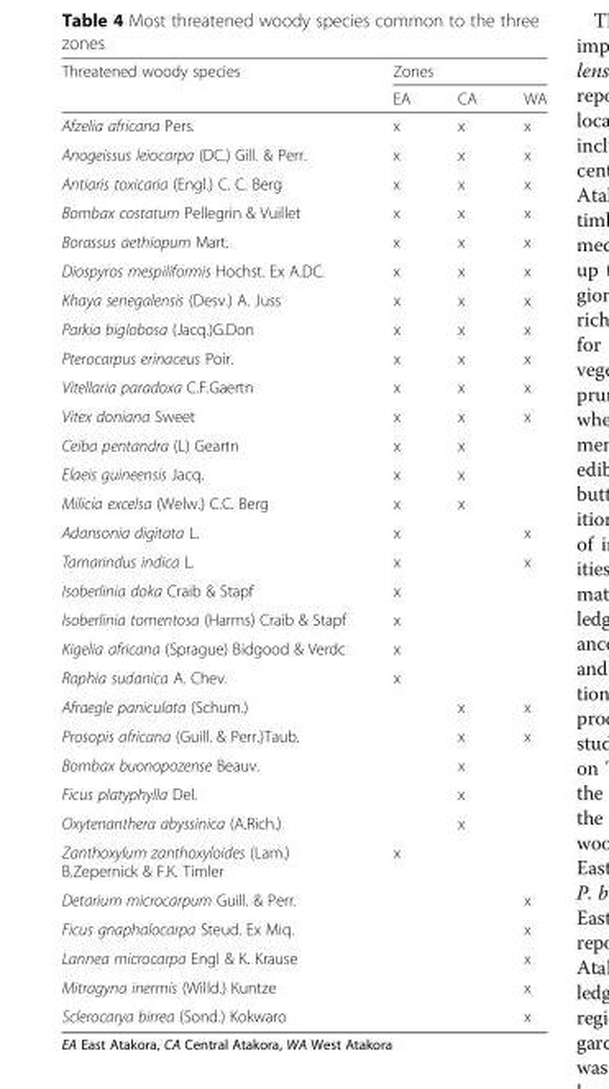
<table><thead><tr><td rowspan="2">Threatened woody species</td><td colspan="3">Zones</td></tr><tr><td>EA</td><td>CA</td><td>WA</td></tr></thead><tbody><tr><td>Afzelia africana Pers.</td><td>x</td><td>x</td><td>x</td></tr><tr><td>Anogeissus leiocarpa (DC.) Gill. &amp; Perr.</td><td>x</td><td>x</td><td>x</td></tr><tr><td>Antiaris toxicaria (Engl.) C. C. Berg</td><td>x</td><td>x</td><td>x</td></tr><tr><td>Bombax costatum Pellegrin &amp; Vuillet</td><td>x</td><td>x</td><td>x</td></tr><tr><td>Borassus aethiopum Mart.</td><td>x</td><td>x</td><td>x</td></tr><tr><td>Diospyros mespiliformis Hochst. Ex A.DC.</td><td>x</td><td>x</td><td>x</td></tr><tr><td>Khaya senegalensis (Desv.) A. Juss</td><td>x</td><td>x</td><td>x</td></tr><tr><td>Parkia biglobosa (Jacq.)G.Don</td><td>x</td><td>x</td><td>x</td></tr><tr><td>Pterocarpus erinaceus Poir.</td><td>x</td><td>x</td><td>x</td></tr><tr><td>Vitellaria paradoxa C.F.Gaertn</td><td>x</td><td>x</td><td>x</td></tr><tr><td>Vitex doniana Sweet</td><td>x</td><td>x</td><td>x</td></tr><tr><td>Ceiba pentandra (L) Geartn</td><td>x</td><td>x</td><td></td></tr><tr><td>Elaeis guineensis Jacq.</td><td>x</td><td>x</td><td></td></tr><tr><td>Milicia excelsa (Welw.) C.C. Berg</td><td>x</td><td>x</td><td></td></tr><tr><td>Adansonia digitata L.</td><td>x</td><td></td><td>x</td></tr><tr><td>Tamarindus indica L.</td><td>x</td><td></td><td>x</td></tr><tr><td>Isoberlinia doka Craib &amp; Stapf</td><td>x</td><td></td><td></td></tr><tr><td>Isoberlinia tomentosa (Harms) Craib &amp; Stapf</td><td>x</td><td></td><td></td></tr><tr><td>Kigelia africana (Sprague) Bidgood &amp; Verdc</td><td>x</td><td></td><td></td></tr><tr><td>Raphia sudanica A. Chev.</td><td>x</td><td></td><td></td></tr><tr><td>Afraegle paniculata (Schum.)</td><td></td><td>x</td><td>x</td></tr><tr><td>Prosopis africana (Guill. &amp; Perr.)Taub.</td><td></td><td>x</td><td>x</td></tr><tr><td>Bombax buonopozense Beauv.</td><td></td><td>x</td><td></td></tr><tr><td>Ficus platyphylla Del.</td><td></td><td>x</td><td></td></tr><tr><td>Oxytenanthera abyssinica (A.Rich.)</td><td></td><td>x</td><td></td></tr><tr><td>Zanthoxylum zanthoxyloides (Lam.) B.Zepernick &amp; F.K. Timler</td><td>x</td><td></td><td></td></tr><tr><td>Detarium microcarpum Guill. &amp; Perr.</td><td></td><td></td><td>x</td></tr><tr><td>Ficus gnaphalocarpa Steud. Ex Miq.</td><td></td><td></td><td>x</td></tr><tr><td>Lannea microcarpa Engl &amp; K. Krause</td><td></td><td></td><td>x</td></tr><tr><td>Mitragyna inermis (Willd.) Kuntze</td><td></td><td></td><td>x</td></tr><tr><td>Sclerocarya birrea (Sond.) Kokwaro</td><td></td><td></td><td>x</td></tr></tbody></table>